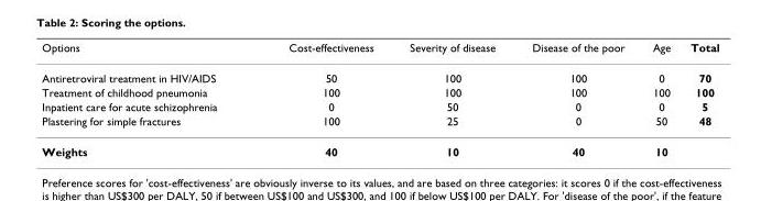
<table><thead><tr><td>Options</td><td>Cost-effectiveness</td><td>Severity of disease</td><td>Disease of the poor</td><td>Age</td><td>Total</td></tr></thead><tbody><tr><td>Antiretroviral treatment in HIV/AIDS</td><td>50</td><td>100</td><td>100</td><td>0</td><td>70</td></tr><tr><td>Treatment of childhood pneumonia</td><td>100</td><td>100</td><td>100</td><td>100</td><td>100</td></tr><tr><td>Inpatient care for acute schizophrenia</td><td>0</td><td>50</td><td>0</td><td>0</td><td>5</td></tr><tr><td>Plastering for simple fractures</td><td>100</td><td>25</td><td>0</td><td>50</td><td>48</td></tr><tr><td>Weights</td><td>40</td><td>10</td><td>40</td><td>10</td><td></td></tr></tbody></table>